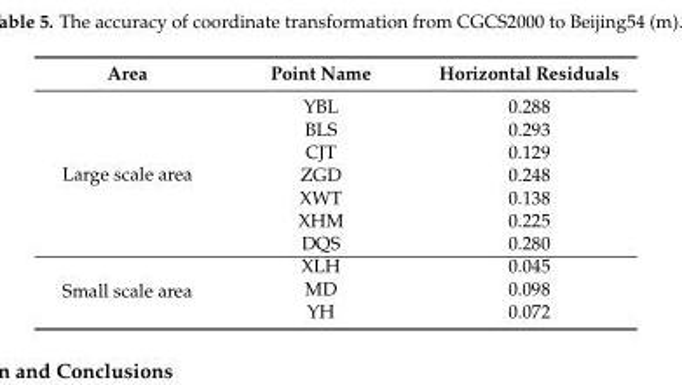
<table><thead><tr><td>Area</td><td>Point Name</td><td>Horizontal Residuals</td></tr></thead><tbody><tr><td rowspan="7">Large scale area</td><td>YBL</td><td>0.288</td></tr><tr><td>BLS</td><td>0.293</td></tr><tr><td>CJT</td><td>0.129</td></tr><tr><td>ZGD</td><td>0.248</td></tr><tr><td>XWT</td><td>0.138</td></tr><tr><td>XHM</td><td>0.225</td></tr><tr><td>DQS</td><td>0.280</td></tr><tr><td rowspan="3">Small scale area</td><td>XLH</td><td>0.045</td></tr><tr><td>MD</td><td>0.098</td></tr><tr><td>YH</td><td>0.072</td></tr></tbody></table>